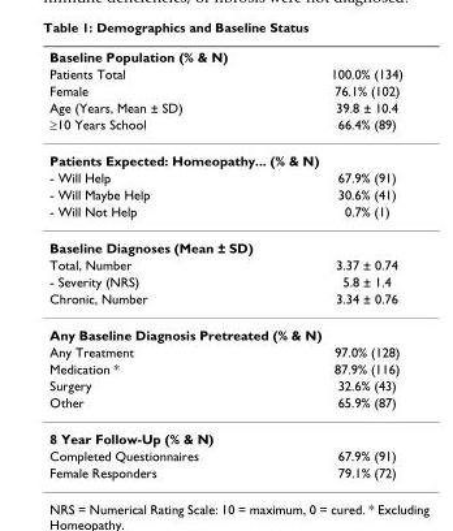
<table><thead><tr><td colspan="2">Baseline Population (% &amp; N)</td></tr><tr><td rowspan="4">Patients Total Female Age (Years, Mean ± SD) ≥10 Years School</td><td rowspan="4">100.0% (134) 76.1% (102) 39.8 ± 10.4 66.4% (89)</td></tr><tr></tr><tr></tr><tr></tr></thead><tbody><tr><td colspan="2">Patients Expected: Homeopathy... (% &amp; N)</td></tr><tr><td>- Will Help</td><td>67.9% (91)</td></tr><tr><td>- Will Maybe Help</td><td>30.6% (41)</td></tr><tr><td>- Will Not Help</td><td>0.7% (1)</td></tr><tr><td colspan="2">Baseline Diagnoses (Mean ± SD)</td></tr><tr><td>Total, Number</td><td>3.37 ± 0.74</td></tr><tr><td>- Severity (NRS)</td><td>5.8 ± 1.4</td></tr><tr><td>Chronic, Number</td><td>3.34 ± 0.76</td></tr><tr><td colspan="2">Any Baseline Diagnosis Pretreated (% &amp; N)</td></tr><tr><td>Any Treatment</td><td>97.0% (128)</td></tr><tr><td>Medication *</td><td>87.9% (116)</td></tr><tr><td>Surgery</td><td>32.6% (43)</td></tr><tr><td>Other</td><td>65.9% (87)</td></tr><tr><td colspan="2">8 Year Follow-Up (% &amp; N)</td></tr><tr><td>Completed Questionnaires</td><td>67.9% (91)</td></tr><tr><td>Female Responders</td><td>79.1% (72)</td></tr></tbody></table>